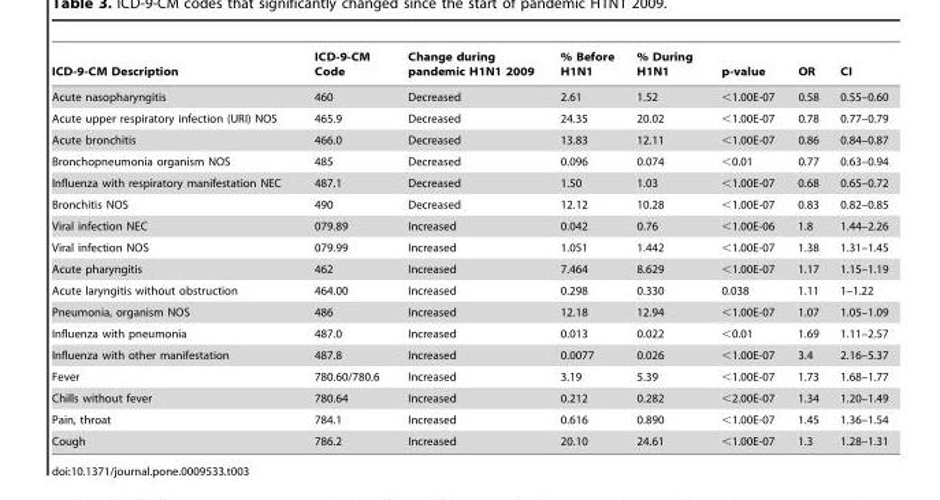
<table><thead><tr><td>ICD-9-CM Description</td><td>ICD-9-CM Code</td><td>Change during pandemic H1N1 2009</td><td>% Before H1N1</td><td>% During H1N1</td><td>p-value</td><td>OR</td><td>CI</td></tr></thead><tbody><tr><td>Acute nasopharyngitis</td><td>460</td><td>Decreased</td><td>2.61</td><td>1.52</td><td>&lt;1.00E-07</td><td>0.58</td><td>0.55–0.60</td></tr><tr><td>Acute upper respiratory infection (URI) NOS</td><td>465.9</td><td>Decreased</td><td>24.35</td><td>20.02</td><td>&lt;1.00E-07</td><td>0.78</td><td>0.77–0.79</td></tr><tr><td>Acute bronchitis</td><td>466.0</td><td>Decreased</td><td>13.83</td><td>12.11</td><td>&lt;1.00E-07</td><td>0.86</td><td>0.84–0.87</td></tr><tr><td>Bronchopneumonia organism NOS</td><td>485</td><td>Decreased</td><td>0.096</td><td>0.074</td><td>&lt;0.01</td><td>0.77</td><td>0.63–0.94</td></tr><tr><td>Influenza with respiratory manifestation NEC</td><td>487.1</td><td>Decreased</td><td>1.50</td><td>1.03</td><td>&lt;1.00E-07</td><td>0.68</td><td>0.65–0.72</td></tr><tr><td>Bronchitis NOS</td><td>490</td><td>Decreased</td><td>12.12</td><td>10.28</td><td>&lt;1.00E-07</td><td>0.83</td><td>0.82–0.85</td></tr><tr><td>Viral infection NEC</td><td>079.89</td><td>Increased</td><td>0.042</td><td>0.76</td><td>&lt;1.00E-06</td><td>1.8</td><td>1.44–2.26</td></tr><tr><td>Viral infection NOS</td><td>079.99</td><td>Increased</td><td>1.051</td><td>1.442</td><td>&lt;1.00E-07</td><td>1.38</td><td>1.31–1.45</td></tr><tr><td>Acute pharyngitis</td><td>462</td><td>Increased</td><td>7.464</td><td>8.629</td><td>&lt;1.00E-07</td><td>1.17</td><td>1.15–1.19</td></tr><tr><td>Acute laryngitis without obstruction</td><td>464.00</td><td>Increased</td><td>0.298</td><td>0.330</td><td>0.038</td><td>1.11</td><td>1–1.22</td></tr><tr><td>Pneumonia, organism NOS</td><td>486</td><td>Increased</td><td>12.18</td><td>12.94</td><td>&lt;1.00E-07</td><td>1.07</td><td>1.05–1.09</td></tr><tr><td>Influenza with pneumonia</td><td>487.0</td><td>Increased</td><td>0.013</td><td>0.022</td><td>&lt;0.01</td><td>1.69</td><td>1.11–2.57</td></tr><tr><td>Influenza with other manifestation</td><td>487.8</td><td>Increased</td><td>0.0077</td><td>0.026</td><td>&lt;1.00E-07</td><td>3.4</td><td>2.16–5.37</td></tr><tr><td>Fever</td><td>780.60/780.6</td><td>Increased</td><td>3.19</td><td>5.39</td><td>&lt;1.00E-07</td><td>1.73</td><td>1.68–1.77</td></tr><tr><td>Chills without fever</td><td>780.64</td><td>Increased</td><td>0.212</td><td>0.282</td><td>&lt;2.00E-07</td><td>1.34</td><td>1.20–1.49</td></tr><tr><td>Pain, throat</td><td>784.1</td><td>Increased</td><td>0.616</td><td>0.890</td><td>&lt;1.00E-07</td><td>1.45</td><td>1.36–1.54</td></tr><tr><td>Cough</td><td>786.2</td><td>Increased</td><td>20.10</td><td>24.61</td><td>&lt;1.00E-07</td><td>1.3</td><td>1.28–1.31</td></tr></tbody></table>